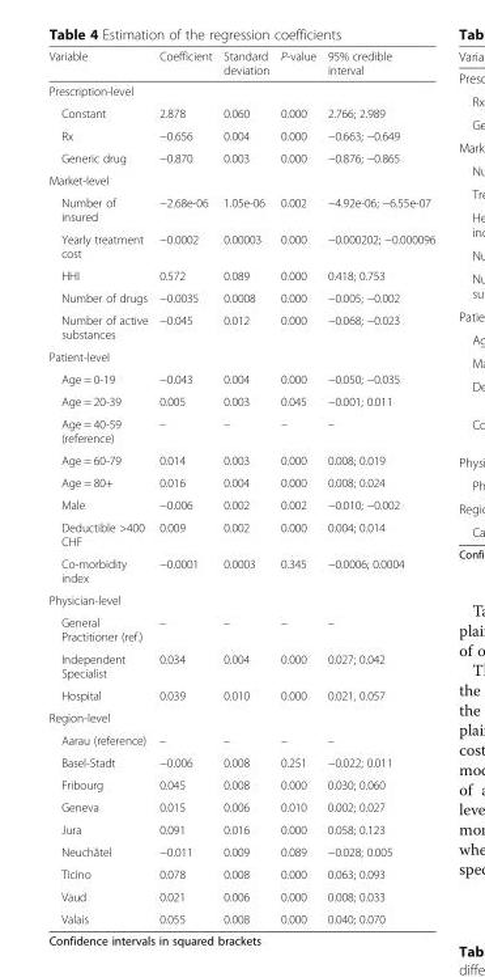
<table><thead><tr><td>Variable</td><td>Coefficient</td><td>Standard deviation</td><td>P-value</td><td>95% credible interval</td></tr></thead><tbody><tr><td colspan="5">Prescription-level</td></tr><tr><td>Constant</td><td>2.878</td><td>0.060</td><td>0.000</td><td>2.766; 2.989</td></tr><tr><td>Rx</td><td>−0.656</td><td>0.004</td><td>0.000</td><td>−0.663; −0.649</td></tr><tr><td>Generic drug</td><td>−0.870</td><td>0.003</td><td>0.000</td><td>−0.876; −0.865</td></tr><tr><td colspan="5">Market-level</td></tr><tr><td>Number of insured</td><td>−2.68e-06</td><td>1.05e-06</td><td>0.002</td><td>−4.92e-06; −6.55e-07</td></tr><tr><td>Yearly treatment cost</td><td>−0.0002</td><td>0.00003</td><td>0.000</td><td>−0.000202; −0.000096</td></tr><tr><td>HHI</td><td>0.572</td><td>0.089</td><td>0.000</td><td>0.418; 0.753</td></tr><tr><td>Number of drugs</td><td>−0.0035</td><td>0.0008</td><td>0.000</td><td>−0.005; −0.002</td></tr><tr><td>Number of active substances</td><td>−0.045</td><td>0.012</td><td>0.000</td><td>−0.068; −0.023</td></tr><tr><td colspan="5">Patient-level</td></tr><tr><td>Age = 0-19</td><td>−0.043</td><td>0.004</td><td>0.000</td><td>−0.050; −0.035</td></tr><tr><td>Age = 20-39</td><td>0.005</td><td>0.003</td><td>0.045</td><td>−0.001; 0.011</td></tr><tr><td>Age = 40-59 (reference)</td><td>–</td><td>–</td><td>–</td><td>–</td></tr><tr><td>Age = 60-79</td><td>0.014</td><td>0.003</td><td>0.000</td><td>0.008; 0.019</td></tr><tr><td>Age = 80+</td><td>0.016</td><td>0.004</td><td>0.000</td><td>0.008; 0.024</td></tr><tr><td>Male</td><td>−0.006</td><td>0.002</td><td>0.002</td><td>−0.010; −0.002</td></tr><tr><td>Deductible &gt;400 CHF</td><td>0.009</td><td>0.002</td><td>0.000</td><td>0.004; 0.014</td></tr><tr><td>Co-morbidity index</td><td>−0.0001</td><td>0.0003</td><td>0.345</td><td>−0.0006; 0.0004</td></tr><tr><td colspan="5">Physician-level</td></tr><tr><td>General Practitioner (ref.)</td><td>–</td><td>–</td><td>–</td><td>–</td></tr><tr><td>Independent Specialist</td><td>0.034</td><td>0.004</td><td>0.000</td><td>0.027; 0.042</td></tr><tr><td>Hospital</td><td>0.039</td><td>0.010</td><td>0.000</td><td>0.021, 0.057</td></tr><tr><td colspan="5">Region-level</td></tr><tr><td>Aarau (reference)</td><td>–</td><td>–</td><td>–</td><td>–</td></tr><tr><td>Basel-Stadt</td><td>−0.006</td><td>0.008</td><td>0.251</td><td>−0.022; 0.011</td></tr><tr><td>Fribourg</td><td>0.045</td><td>0.008</td><td>0.000</td><td>0.030; 0.060</td></tr><tr><td>Geneva</td><td>0.015</td><td>0.006</td><td>0.010</td><td>0.002; 0.027</td></tr><tr><td>Jura</td><td>0.091</td><td>0.016</td><td>0.000</td><td>0.058; 0.123</td></tr><tr><td>Neuchâtel</td><td>−0.011</td><td>0.009</td><td>0.089</td><td>−0.028; 0.005</td></tr><tr><td>Ticino</td><td>0.078</td><td>0.008</td><td>0.000</td><td>0.063; 0.093</td></tr><tr><td>Vaud</td><td>0.021</td><td>0.006</td><td>0.000</td><td>0.008; 0.033</td></tr><tr><td>Valais</td><td>0.055</td><td>0.008</td><td>0.000</td><td>0.040; 0.070</td></tr></tbody></table>